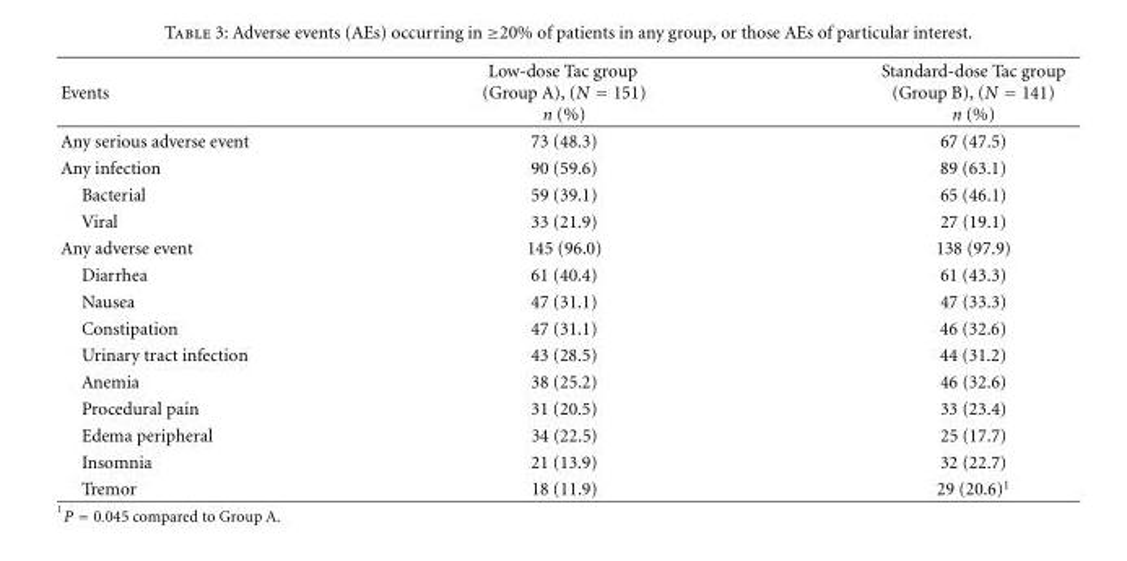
<table><thead><tr><td>Events</td><td>Low-dose Tac group (Group A), (N = 151) n (%)</td><td>Standard-dose Tac group (Group B), (N = 141) n (%)</td></tr></thead><tbody><tr><td>Any serious adverse event</td><td>73 (48.3)</td><td>67 (47.5)</td></tr><tr><td>Any infection</td><td>90 (59.6)</td><td>89 (63.1)</td></tr><tr><td>Bacterial</td><td>59 (39.1)</td><td>65 (46.1)</td></tr><tr><td>Viral</td><td>33 (21.9)</td><td>27 (19.1)</td></tr><tr><td>Any adverse event</td><td>145 (96.0)</td><td>138 (97.9)</td></tr><tr><td>Diarrhea</td><td>61 (40.4)</td><td>61 (43.3)</td></tr><tr><td>Nausea</td><td>47 (31.1)</td><td>47 (33.3)</td></tr><tr><td>Constipation</td><td>47 (31.1)</td><td>46 (32.6)</td></tr><tr><td>Urinary tract infection</td><td>43 (28.5)</td><td>44 (31.2)</td></tr><tr><td>Anemia</td><td>38 (25.2)</td><td>46 (32.6)</td></tr><tr><td>Procedural pain</td><td>31 (20.5)</td><td>33 (23.4)</td></tr><tr><td>Edema peripheral</td><td>34 (22.5)</td><td>25 (17.7)</td></tr><tr><td>Insomnia</td><td>21 (13.9)</td><td>32 (22.7)</td></tr><tr><td>Tremor</td><td>18 (11.9)</td><td>29 (20.6)<sup>1</sup></td></tr></tbody></table>